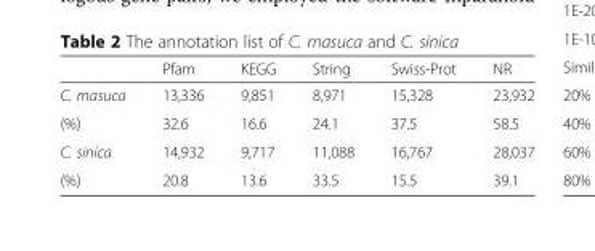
<table><thead><tr><td></td><td>Pfam</td><td>KEGG</td><td>String</td><td>Swiss-Prot</td><td>NR</td></tr></thead><tbody><tr><td>C. masuca</td><td>13,336</td><td>9,851</td><td>8,971</td><td>15,328</td><td>23,932</td></tr><tr><td>(%)</td><td>32.6</td><td>16.6</td><td>24.1</td><td>37.5</td><td>58.5</td></tr><tr><td>C. sinica</td><td>14,932</td><td>9,717</td><td>11,088</td><td>16,767</td><td>28,037</td></tr><tr><td>(%)</td><td>20.8</td><td>13.6</td><td>33.5</td><td>15.5</td><td>39.1</td></tr></tbody></table>